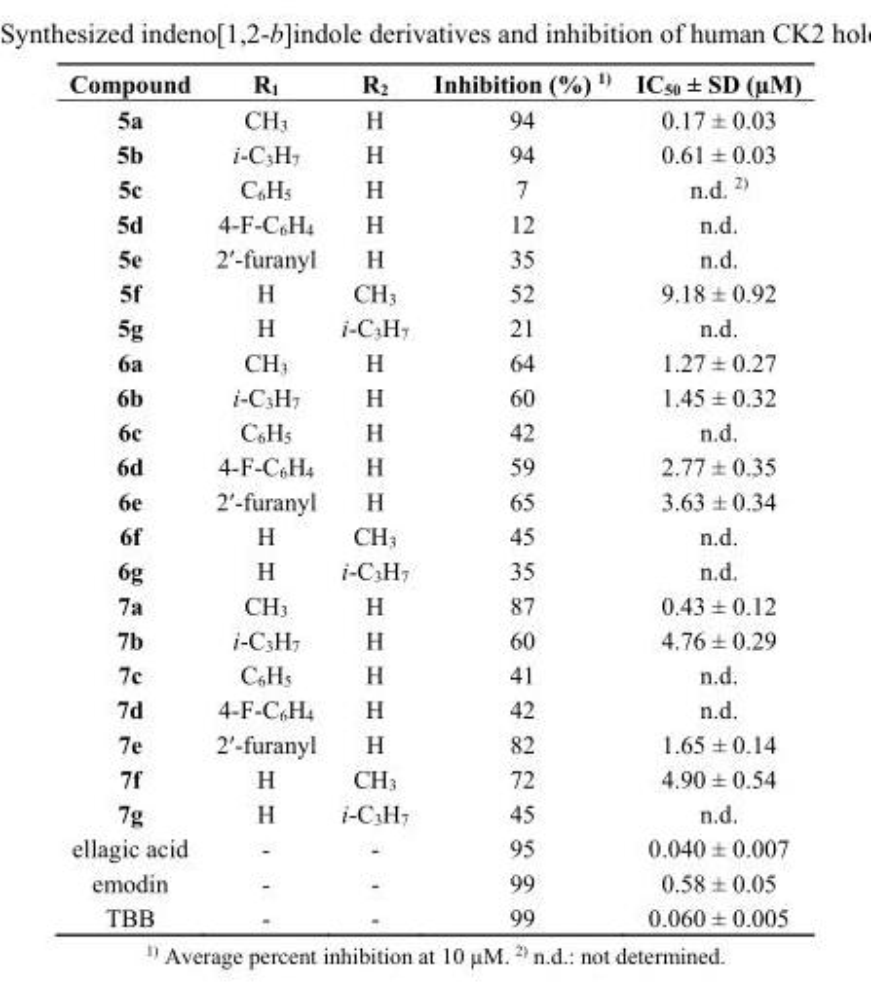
<table><thead><tr><td>Compound</td><td>R<sub>1</sub></td><td>R<sub>2</sub></td><td>Inhibition (%) <sup>1)</sup></td><td>IC<sub>50</sub> ± SD (µM)</td></tr></thead><tbody><tr><td>5a</td><td>CH<sub>3</sub></td><td>H</td><td>94</td><td>0.17 ± 0.03</td></tr><tr><td>5b</td><td>i-C<sub>3</sub>H<sub>7</sub></td><td>H</td><td>94</td><td>0.61 ± 0.03</td></tr><tr><td>5c</td><td>C<sub>6</sub>H<sub>5</sub></td><td>H</td><td>7</td><td>n.d. <sup>2)</sup></td></tr><tr><td>5d</td><td>4-F-C<sub>6</sub>H<sub>4</sub></td><td>H</td><td>12</td><td>n.d.</td></tr><tr><td>5e</td><td>2′-furanyl</td><td>H</td><td>35</td><td>n.d.</td></tr><tr><td>5f</td><td>H</td><td>CH<sub>3</sub></td><td>52</td><td>9.18 ± 0.92</td></tr><tr><td>5g</td><td>H</td><td>i-C<sub>3</sub>H<sub>7</sub></td><td>21</td><td>n.d.</td></tr><tr><td>6a</td><td>CH<sub>3</sub></td><td>H</td><td>64</td><td>1.27 ± 0.27</td></tr><tr><td>6b</td><td>i-C<sub>3</sub>H<sub>7</sub></td><td>H</td><td>60</td><td>1.45 ± 0.32</td></tr><tr><td>6c</td><td>C<sub>6</sub>H<sub>5</sub></td><td>H</td><td>42</td><td>n.d.</td></tr><tr><td>6d</td><td>4-F-C<sub>6</sub>H<sub>4</sub></td><td>H</td><td>59</td><td>2.77 ± 0.35</td></tr><tr><td>6e</td><td>2′-furanyl</td><td>H</td><td>65</td><td>3.63 ± 0.34</td></tr><tr><td>6f</td><td>H</td><td>CH<sub>3</sub></td><td>45</td><td>n.d.</td></tr><tr><td>6g</td><td>H</td><td>i-C<sub>3</sub>H<sub>7</sub></td><td>35</td><td>n.d.</td></tr><tr><td>7a</td><td>CH<sub>3</sub></td><td>H</td><td>87</td><td>0.43 ± 0.12</td></tr><tr><td>7b</td><td>i-C<sub>3</sub>H<sub>7</sub></td><td>H</td><td>60</td><td>4.76 ± 0.29</td></tr><tr><td>7c</td><td>C<sub>6</sub>H<sub>5</sub></td><td>H</td><td>41</td><td>n.d.</td></tr><tr><td>7d</td><td>4-F-C<sub>6</sub>H<sub>4</sub></td><td>H</td><td>42</td><td>n.d.</td></tr><tr><td>7e</td><td>2′-furanyl</td><td>H</td><td>82</td><td>1.65 ± 0.14</td></tr><tr><td>7f</td><td>H</td><td>CH<sub>3</sub></td><td>72</td><td>4.90 ± 0.54</td></tr><tr><td>7g</td><td>H</td><td>i-C<sub>3</sub>H<sub>7</sub></td><td>45</td><td>n.d.</td></tr><tr><td>ellagic acid</td><td>-</td><td>-</td><td>95</td><td>0.040 ± 0.007</td></tr><tr><td>emodin</td><td>-</td><td>-</td><td>99</td><td>0.58 ± 0.05</td></tr><tr><td>TBB</td><td>-</td><td>-</td><td>99</td><td>0.060 ± 0.005</td></tr></tbody></table>